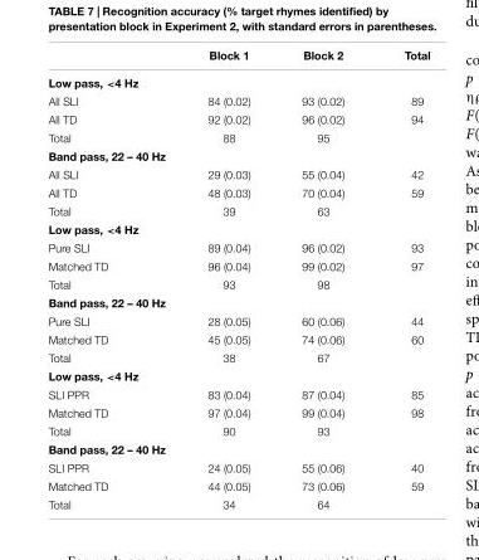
<table><thead><tr><td></td><td>Block 1</td><td>Block 2</td><td>Total</td></tr></thead><tbody><tr><td colspan="4">Low pass, &lt;4 Hz</td></tr><tr><td>All SLI</td><td>84 (0.02)</td><td>93 (0.02)</td><td>89</td></tr><tr><td>All TD</td><td>92 (0.02)</td><td>96 (0.02)</td><td>94</td></tr><tr><td>Total</td><td>88</td><td>95</td><td></td></tr><tr><td colspan="4">Band pass, 22 – 40 Hz</td></tr><tr><td>All SLI</td><td>29 (0.03)</td><td>55 (0.04)</td><td>42</td></tr><tr><td>All TD</td><td>48 (0.03)</td><td>70 (0.04)</td><td>59</td></tr><tr><td>Total</td><td>39</td><td>63</td><td></td></tr><tr><td colspan="4">Low pass, &lt;4 Hz</td></tr><tr><td>Pure SLI</td><td>89 (0.04)</td><td>96 (0.02)</td><td>93</td></tr><tr><td>Matched TD</td><td>96 (0.04)</td><td>99 (0.02)</td><td>97</td></tr><tr><td>Total</td><td>93</td><td>98</td><td></td></tr><tr><td colspan="4">Band pass, 22 – 40 Hz</td></tr><tr><td>Pure SLI</td><td>28 (0.05)</td><td>60 (0.06)</td><td>44</td></tr><tr><td>Matched TD</td><td>45 (0.05)</td><td>74 (0.06)</td><td>60</td></tr><tr><td>Total</td><td>38</td><td>67</td><td></td></tr><tr><td colspan="4">Low pass, &lt;4 Hz</td></tr><tr><td>SLI PPR</td><td>83 (0.04)</td><td>87 (0.04)</td><td>85</td></tr><tr><td>Matched TD</td><td>97 (0.04)</td><td>99 (0.04)</td><td>98</td></tr><tr><td>Total</td><td>90</td><td>93</td><td></td></tr><tr><td colspan="4">Band pass, 22 – 40 Hz</td></tr><tr><td>SLI PPR</td><td>24 (0.05)</td><td>55 (0.06)</td><td>40</td></tr><tr><td>Matched TD</td><td>44 (0.05)</td><td>73 (0.06)</td><td>59</td></tr><tr><td>Total</td><td>34</td><td>64</td><td></td></tr></tbody></table>